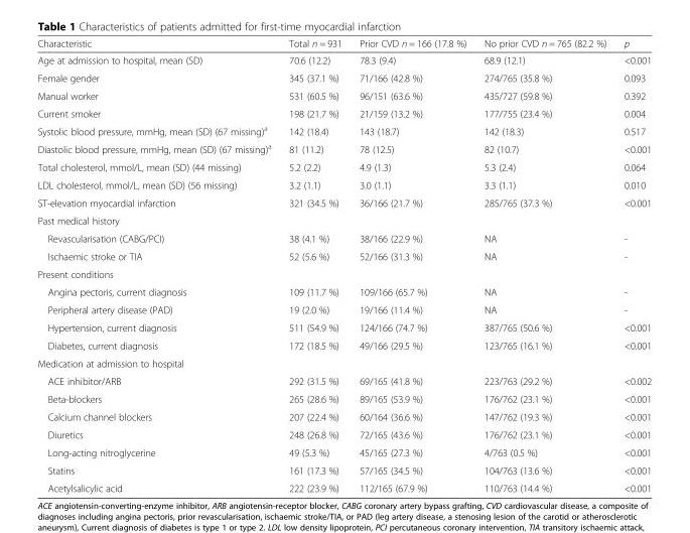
<table><thead><tr><td>Characteristic</td><td>Total n = 931</td><td>Prior CVD n = 166 (17.8 %)</td><td>No prior CVD n = 765 (82.2 %)</td><td>p</td></tr></thead><tbody><tr><td>Age at admission to hospital, mean (SD)</td><td>70.6 (12.2)</td><td>78.3 (9.4)</td><td>68.9 (12.1)</td><td>&lt;0.001</td></tr><tr><td>Female gender</td><td>345 (37.1 %)</td><td>71/166 (42.8 %)</td><td>274/765 (35.8 %)</td><td>0.093</td></tr><tr><td>Manual worker</td><td>531 (60.5 %)</td><td>96/151 (63.6 %)</td><td>435/727 (59.8 %)</td><td>0.392</td></tr><tr><td>Current smoker</td><td>198 (21.7 %)</td><td>21/159 (13.2 %)</td><td>177/755 (23.4 %)</td><td>0.004</td></tr><tr><td>Systolic blood pressure, mmHg, mean (SD) (67 missing)<sup>a</sup></td><td>142 (18.4)</td><td>143 (18.7)</td><td>142 (18.3)</td><td>0.517</td></tr><tr><td>Diastolic blood pressure, mmHg, mean (SD) (67 missing)<sup>a</sup></td><td>81 (11.2)</td><td>78 (12.5)</td><td>82 (10.7)</td><td>&lt;0.001</td></tr><tr><td>Total cholesterol, mmol/L, mean (SD) (44 missing)</td><td>5.2 (2.2)</td><td>4.9 (1.3)</td><td>5.3 (2.4)</td><td>0.064</td></tr><tr><td>LDL cholesterol, mmol/L, mean (SD) (56 missing)</td><td>3.2 (1.1)</td><td>3.0 (1.1)</td><td>3.3 (1.1)</td><td>0.010</td></tr><tr><td>ST-elevation myocardial infarction</td><td>321 (34.5 %)</td><td>36/166 (21.7 %)</td><td>285/765 (37.3 %)</td><td>&lt;0.001</td></tr><tr><td colspan="5">Past medical history</td></tr><tr><td>Revascularisation (CABG/PCI)</td><td>38 (4.1 %)</td><td>38/166 (22.9 %)</td><td>NA</td><td>-</td></tr><tr><td>Ischaemic stroke or TIA</td><td>52 (5.6 %)</td><td>52/166 (31.3 %)</td><td>NA</td><td>-</td></tr><tr><td colspan="5">Present conditions</td></tr><tr><td>Angina pectoris, current diagnosis</td><td>109 (11.7 %)</td><td>109/166 (65.7 %)</td><td>NA</td><td>-</td></tr><tr><td>Peripheral artery disease (PAD)</td><td>19 (2.0 %)</td><td>19/166 (11.4 %)</td><td>NA</td><td>-</td></tr><tr><td>Hypertension, current diagnosis</td><td>511 (54.9 %)</td><td>124/166 (74.7 %)</td><td>387/765 (50.6 %)</td><td>&lt;0.001</td></tr><tr><td>Diabetes, current diagnosis</td><td>172 (18.5 %)</td><td>49/166 (29.5 %)</td><td>123/765 (16.1 %)</td><td>&lt;0.001</td></tr><tr><td colspan="5">Medication at admission to hospital</td></tr><tr><td>ACE inhibitor/ARB</td><td>292 (31.5 %)</td><td>69/165 (41.8 %)</td><td>223/763 (29.2 %)</td><td>&lt;0.002</td></tr><tr><td>Beta-blockers</td><td>265 (28.6 %)</td><td>89/165 (53.9 %)</td><td>176/762 (23.1 %)</td><td>&lt;0.001</td></tr><tr><td>Calcium channel blockers</td><td>207 (22.4 %)</td><td>60/164 (36.6 %)</td><td>147/762 (19.3 %)</td><td>&lt;0.001</td></tr><tr><td>Diuretics</td><td>248 (26.8 %)</td><td>72/165 (43.6 %)</td><td>176/762 (23.1 %)</td><td>&lt;0.001</td></tr><tr><td>Long-acting nitroglycerine</td><td>49 (5.3 %)</td><td>45/165 (27.3 %)</td><td>4/763 (0.5 %)</td><td>&lt;0.001</td></tr><tr><td>Statins</td><td>161 (17.3 %)</td><td>57/165 (34.5 %)</td><td>104/763 (13.6 %)</td><td>&lt;0.001</td></tr><tr><td>Acetylsalicylic acid</td><td>222 (23.9 %)</td><td>112/165 (67.9 %)</td><td>110/763 (14.4 %)</td><td>&lt;0.001</td></tr></tbody></table>